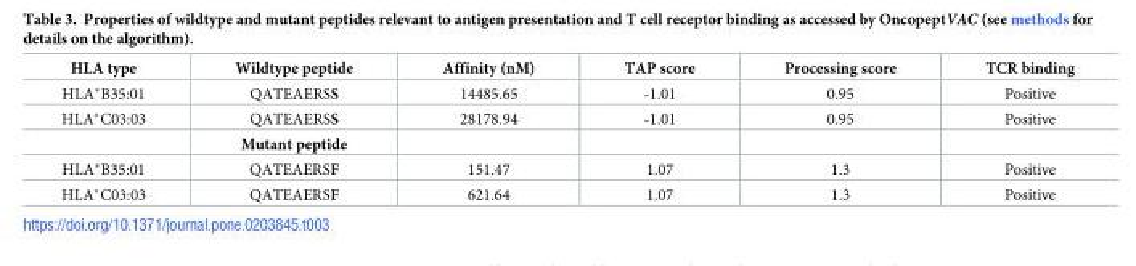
<table><thead><tr><td>HLA type</td><td>Wildtype peptide</td><td>Affinity (nM)</td><td>TAP score</td><td>Processing score</td><td>TCR binding</td></tr></thead><tbody><tr><td>HLA*B35:01</td><td>QATEAERSS</td><td>14485.65</td><td>-1.01</td><td>0.95</td><td>Positive</td></tr><tr><td rowspan="2">HLA*C03:03</td><td>QATEAERSS</td><td>28178.94</td><td>-1.01</td><td>0.95</td><td>Positive</td></tr><tr><td>Mutant peptide</td><td></td><td></td><td></td><td></td></tr><tr><td>HLA*B35:01</td><td>QATEAERSF</td><td>151.47</td><td>1.07</td><td>1.3</td><td>Positive</td></tr><tr><td>HLA*C03:03</td><td>QATEAERSF</td><td>621.64</td><td>1.07</td><td>1.3</td><td>Positive</td></tr></tbody></table>